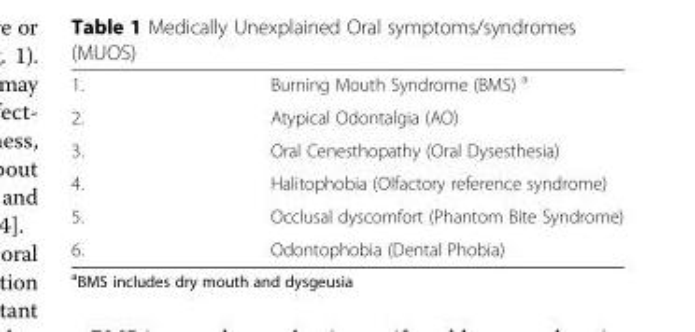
<table><tbody><tr><td>1.</td><td>Burning Mouth Syndrome (BMS) <sup>a</sup></td></tr><tr><td>2.</td><td>Atypical Odontalgia (AO)</td></tr><tr><td>3.</td><td>Oral Cenesthopathy (Oral Dysesthesia)</td></tr><tr><td>4.</td><td>Halitophobia (Olfactory reference syndrome)</td></tr><tr><td>5.</td><td>Occlusal dyscomfort (Phantom Bite Syndrome)</td></tr><tr><td>6.</td><td>Odontophobia (Dental Phobia)</td></tr></tbody></table>